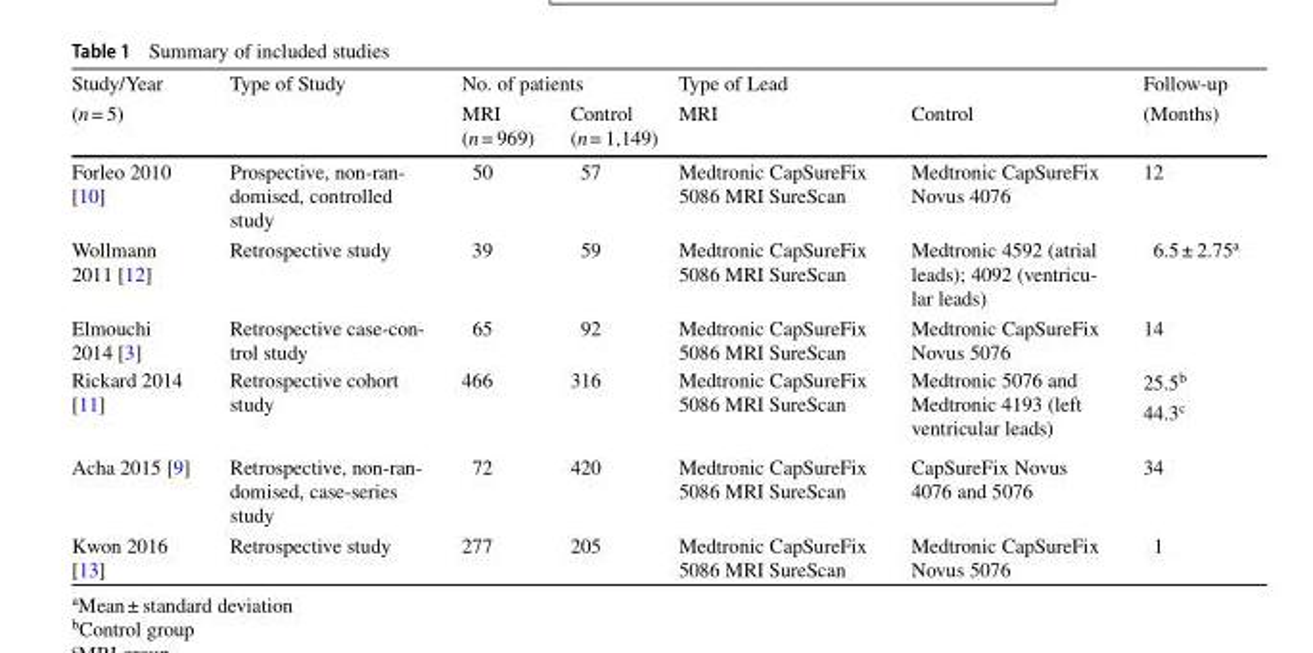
<table><thead><tr><td rowspan="2">Study/Year (n= 5)</td><td rowspan="2">Type of Study</td><td colspan="2">No. of patients</td><td colspan="2">Type of Lead</td><td rowspan="2">Follow-up (Months)</td></tr><tr><td>MRI (n= 969)</td><td>Control (n= 1,149)</td><td>MRI</td><td>Control</td></tr></thead><tbody><tr><td>Forleo 2010 [10]</td><td>Prospective, non-ran- domised, controlled study</td><td>50</td><td>57</td><td>Medtronic CapSureFix 5086 MRI SureScan</td><td>Medtronic CapSureFix Novus 4076</td><td>12</td></tr><tr><td>Wollmann 2011 [12]</td><td>Retrospective study</td><td>39</td><td>59</td><td>Medtronic CapSureFix 5086 MRI SureScan</td><td>Medtronic 4592 (atrial leads); 4092 (ventricu- lar leads)</td><td>6.5± 2.75<sup>a</sup></td></tr><tr><td>Elmouchi 2014 [3]</td><td>Retrospective case-con- trol study</td><td>65</td><td>92</td><td>Medtronic CapSureFix 5086 MRI SureScan</td><td>Medtronic CapSureFix Novus 5076</td><td>14</td></tr><tr><td rowspan="2">Rickard 2014 [11]</td><td rowspan="2">Retrospective cohort study</td><td rowspan="2">466</td><td rowspan="2">316</td><td rowspan="2">Medtronic CapSureFix 5086 MRI SureScan</td><td rowspan="2">Medtronic 5076 and Medtronic 4193 (left ventricular leads)</td><td>25.5<sup>b</sup></td></tr><tr><td>44.3<sup>c</sup></td></tr><tr><td>Acha 2015 [9]</td><td>Retrospective, non-ran- domised, case-series study</td><td>72</td><td>420</td><td>Medtronic CapSureFix 5086 MRI SureScan</td><td>CapSureFix Novus 4076 and 5076</td><td>34</td></tr><tr><td>Kwon 2016 [13]</td><td>Retrospective study</td><td>277</td><td>205</td><td>Medtronic CapSureFix 5086 MRI SureScan</td><td>Medtronic CapSureFix Novus 5076</td><td>1</td></tr></tbody></table>